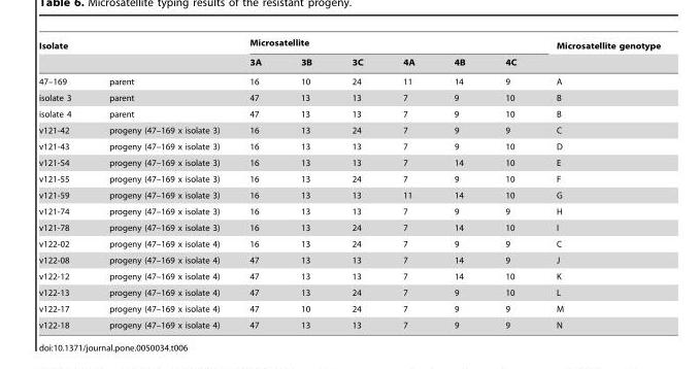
<table><thead><tr><td colspan="2">Isolate</td><td colspan="6">Microsatellite</td><td rowspan="2">Microsatellite genotype</td></tr><tr><td></td><td></td><td>3A</td><td>3B</td><td>3C</td><td>4A</td><td>4B</td><td>4C</td></tr></thead><tbody><tr><td>47–169</td><td>parent</td><td>16</td><td>10</td><td>24</td><td>11</td><td>14</td><td>9</td><td>A</td></tr><tr><td>isolate 3</td><td>parent</td><td>47</td><td>13</td><td>13</td><td>7</td><td>9</td><td>10</td><td>B</td></tr><tr><td>isolate 4</td><td>parent</td><td>47</td><td>13</td><td>13</td><td>7</td><td>9</td><td>10</td><td>B</td></tr><tr><td>v121-42</td><td>progeny (47–169 x isolate 3)</td><td>16</td><td>13</td><td>24</td><td>7</td><td>9</td><td>9</td><td>C</td></tr><tr><td>v121-43</td><td>progeny (47–169 x isolate 3)</td><td>16</td><td>13</td><td>13</td><td>7</td><td>9</td><td>10</td><td>D</td></tr><tr><td>v121-54</td><td>progeny (47–169 x isolate 3)</td><td>16</td><td>13</td><td>13</td><td>7</td><td>14</td><td>10</td><td>E</td></tr><tr><td>v121-55</td><td>progeny (47–169 x isolate 3)</td><td>16</td><td>13</td><td>24</td><td>7</td><td>9</td><td>10</td><td>F</td></tr><tr><td>v121-59</td><td>progeny (47–169 x isolate 3)</td><td>16</td><td>13</td><td>13</td><td>11</td><td>14</td><td>10</td><td>G</td></tr><tr><td>v121-74</td><td>progeny (47–169 x isolate 3)</td><td>16</td><td>13</td><td>13</td><td>7</td><td>9</td><td>9</td><td>H</td></tr><tr><td>v121-78</td><td>progeny (47–169 x isolate 3)</td><td>16</td><td>13</td><td>24</td><td>7</td><td>14</td><td>10</td><td>I</td></tr><tr><td>v122-02</td><td>progeny (47–169 x isolate 4)</td><td>16</td><td>13</td><td>24</td><td>7</td><td>9</td><td>9</td><td>C</td></tr><tr><td>v122-08</td><td>progeny (47–169 x isolate 4)</td><td>47</td><td>13</td><td>13</td><td>7</td><td>14</td><td>9</td><td>J</td></tr><tr><td>v122-12</td><td>progeny (47–169 x isolate 4)</td><td>47</td><td>13</td><td>13</td><td>7</td><td>14</td><td>10</td><td>K</td></tr><tr><td>v122-13</td><td>progeny (47–169 x isolate 4)</td><td>47</td><td>13</td><td>24</td><td>7</td><td>9</td><td>10</td><td>L</td></tr><tr><td>v122-17</td><td>progeny (47–169 x isolate 4)</td><td>47</td><td>10</td><td>24</td><td>7</td><td>9</td><td>9</td><td>M</td></tr><tr><td>v122-18</td><td>progeny (47–169 x isolate 4)</td><td>47</td><td>13</td><td>13</td><td>7</td><td>9</td><td>9</td><td>N</td></tr></tbody></table>